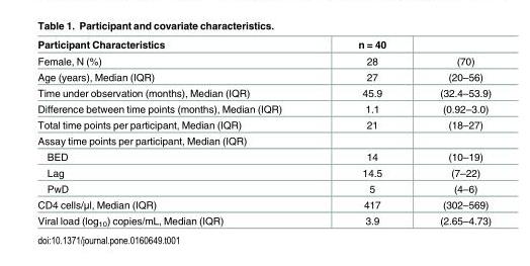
<table><thead><tr><td>Participant Characteristics</td><td>n = 40</td><td></td></tr></thead><tbody><tr><td>Female, N (%)</td><td>28</td><td>(70)</td></tr><tr><td>Age (years), Median (IQR)</td><td>27</td><td>(20–56)</td></tr><tr><td>Time under observation (months), Median (IQR)</td><td>45.9</td><td>(32.4–53.9)</td></tr><tr><td>Difference between time points (months), Median (IQR)</td><td>1.1</td><td>(0.92–3.0)</td></tr><tr><td>Total time points per participant, Median (IQR)</td><td>21</td><td>(18–27)</td></tr><tr><td colspan="3">Assay time points per participant, Median (IQR)</td></tr><tr><td>BED</td><td>14</td><td>(10–19)</td></tr><tr><td>Lag</td><td>14.5</td><td>(7–22)</td></tr><tr><td>PwD</td><td>5</td><td>(4–6)</td></tr><tr><td>CD4 cells/μl, Median (IQR)</td><td>417</td><td>(302–569)</td></tr><tr><td>Viral load (log<sub>10</sub>) copies/mL, Median (IQR)</td><td>3.9</td><td>(2.65–4.73)</td></tr></tbody></table>